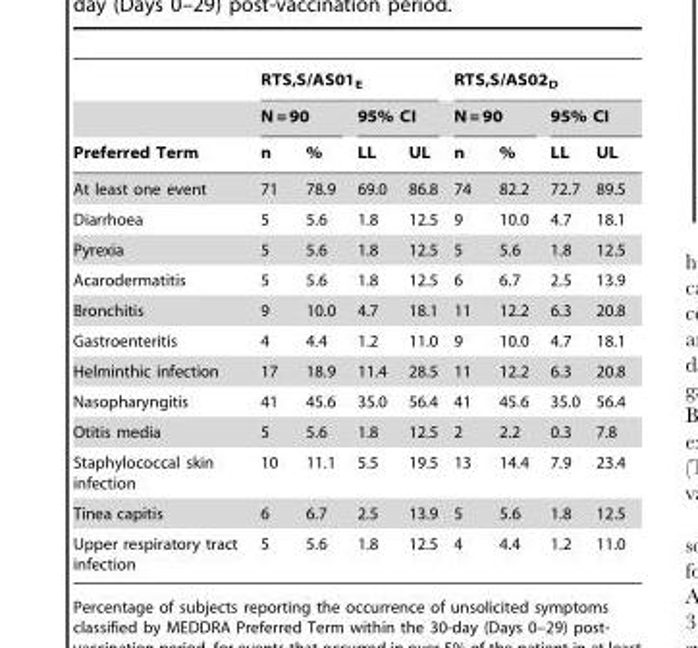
<table><thead><tr><td rowspan="3">Preferred Term</td><td colspan="4">RTS,S/AS01<sub>E</sub></td><td colspan="4">RTS,S/AS02<sub>D</sub></td></tr><tr><td colspan="2">N = 90</td><td colspan="2">95% CI</td><td colspan="2">N = 90</td><td colspan="2">95% CI</td></tr><tr><td>n</td><td>%</td><td>LL</td><td>UL</td><td>n</td><td>%</td><td>LL</td><td>UL</td></tr></thead><tbody><tr><td>At least one event</td><td>71</td><td>78.9</td><td>69.0</td><td>86.8</td><td>74</td><td>82.2</td><td>72.7</td><td>89.5</td></tr><tr><td>Diarrhoea</td><td>5</td><td>5.6</td><td>1.8</td><td>12.5</td><td>9</td><td>10.0</td><td>4.7</td><td>18.1</td></tr><tr><td>Pyrexia</td><td>5</td><td>5.6</td><td>1.8</td><td>12.5</td><td>5</td><td>5.6</td><td>1.8</td><td>12.5</td></tr><tr><td>Acarodermatitis</td><td>5</td><td>5.6</td><td>1.8</td><td>12.5</td><td>6</td><td>6.7</td><td>2.5</td><td>13.9</td></tr><tr><td>Bronchitis</td><td>9</td><td>10.0</td><td>4.7</td><td>18.1</td><td>11</td><td>12.2</td><td>6.3</td><td>20.8</td></tr><tr><td>Gastroenteritis</td><td>4</td><td>4.4</td><td>1.2</td><td>11.0</td><td>9</td><td>10.0</td><td>4.7</td><td>18.1</td></tr><tr><td>Helminthic infection</td><td>17</td><td>18.9</td><td>11.4</td><td>28.5</td><td>11</td><td>12.2</td><td>6.3</td><td>20.8</td></tr><tr><td>Nasopharyngitis</td><td>41</td><td>45.6</td><td>35.0</td><td>56.4</td><td>41</td><td>45.6</td><td>35.0</td><td>56.4</td></tr><tr><td>Otitis media</td><td>5</td><td>5.6</td><td>1.8</td><td>12.5</td><td>2</td><td>2.2</td><td>0.3</td><td>7.8</td></tr><tr><td>Staphylococcal skin infection</td><td>10</td><td>11.1</td><td>5.5</td><td>19.5</td><td>13</td><td>14.4</td><td>7.9</td><td>23.4</td></tr><tr><td>Tinea capitis</td><td>6</td><td>6.7</td><td>2.5</td><td>13.9</td><td>5</td><td>5.6</td><td>1.8</td><td>12.5</td></tr><tr><td>Upper respiratory tract infection</td><td>5</td><td>5.6</td><td>1.8</td><td>12.5</td><td>4</td><td>4.4</td><td>1.2</td><td>11.0</td></tr></tbody></table>